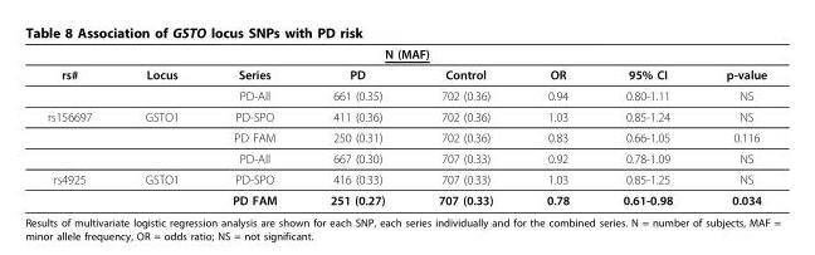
<table><thead><tr><td colspan="8">N (MAF)</td></tr><tr><td>rs#</td><td>Locus</td><td>Series</td><td>PD</td><td>Control</td><td>OR</td><td>95% CI</td><td>p-value</td></tr></thead><tbody><tr><td></td><td></td><td>PD-All</td><td>661 (0.35)</td><td>702 (0.36)</td><td>0.94</td><td>0.80-1.11</td><td>NS</td></tr><tr><td rowspan="3">rs156697</td><td>GSTO1</td><td>PD-SPO</td><td>411 (0.36)</td><td>702 (0.36)</td><td>1.03</td><td>0.85-1.24</td><td>NS</td></tr><tr><td></td><td>PD FAM</td><td>250 (0.31)</td><td>702 (0.36)</td><td>0.83</td><td>0.66-1.05</td><td>0.116</td></tr><tr><td></td><td>PD-All</td><td>667 (0.30)</td><td>707 (0.33)</td><td>0.92</td><td>0.78-1.09</td><td>NS</td></tr><tr><td rowspan="2">rs4925</td><td>GSTO1</td><td>PD-SPO</td><td>416 (0.33)</td><td>707 (0.33)</td><td>1.03</td><td>0.85-1.25</td><td>NS</td></tr><tr><td></td><td>PD FAM</td><td>251 (0.27)</td><td>707 (0.33)</td><td>0.78</td><td>0.61-0.98</td><td>0.034</td></tr></tbody></table>